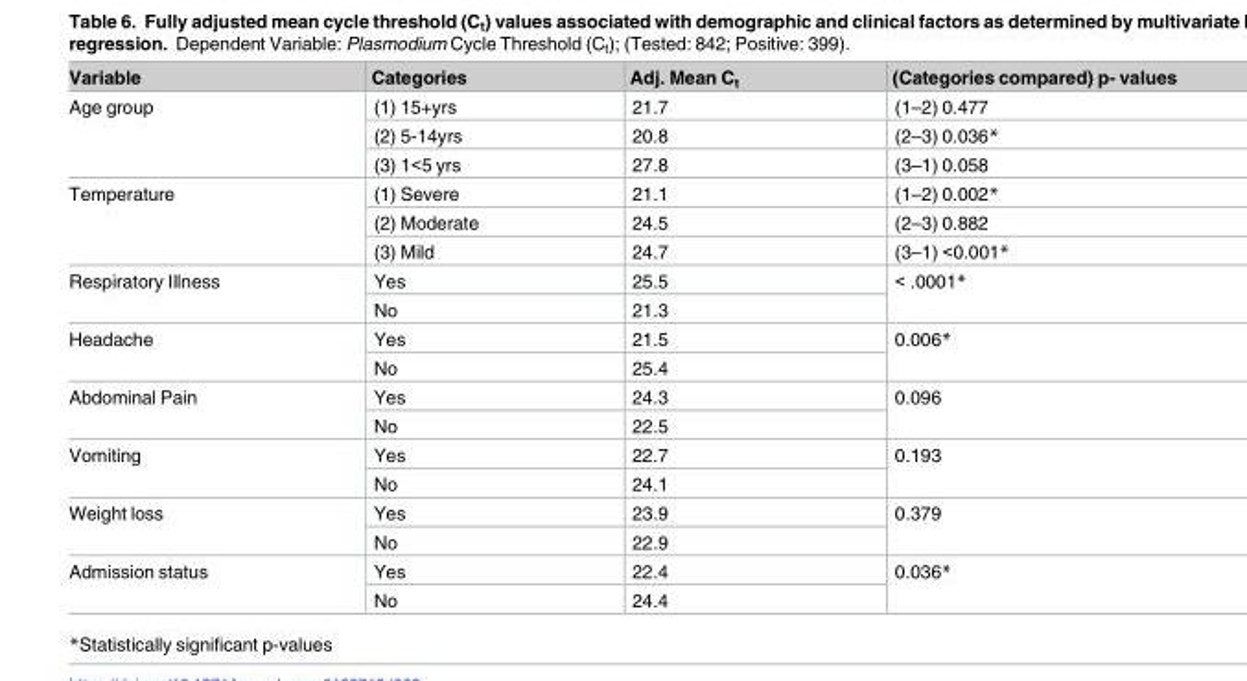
<table><thead><tr><td>Variable</td><td>Categories</td><td>Adj. Mean C<sub>t</sub></td><td>(Categories compared) p- values</td></tr></thead><tbody><tr><td rowspan="3">Age group</td><td>(1) 15+yrs</td><td>21.7</td><td>(1–2) 0.477</td></tr><tr><td>(2) 5-14yrs</td><td>20.8</td><td>(2–3) 0.036*</td></tr><tr><td>(3) 1&lt;5 yrs</td><td>27.8</td><td>(3–1) 0.058</td></tr><tr><td rowspan="3">Temperature</td><td>(1) Severe</td><td>21.1</td><td>(1–2) 0.002*</td></tr><tr><td>(2) Moderate</td><td>24.5</td><td>(2–3) 0.882</td></tr><tr><td>(3) Mild</td><td>24.7</td><td>(3–1) &lt;0.001*</td></tr><tr><td rowspan="2">Respiratory Illness</td><td>Yes</td><td>25.5</td><td rowspan="2">&lt; .0001*</td></tr><tr><td>No</td><td>21.3</td></tr><tr><td rowspan="2">Headache</td><td>Yes</td><td>21.5</td><td rowspan="2">0.006*</td></tr><tr><td>No</td><td>25.4</td></tr><tr><td rowspan="2">Abdominal Pain</td><td>Yes</td><td>24.3</td><td rowspan="2">0.096</td></tr><tr><td>No</td><td>22.5</td></tr><tr><td rowspan="2">Vomiting</td><td>Yes</td><td>22.7</td><td rowspan="2">0.193</td></tr><tr><td>No</td><td>24.1</td></tr><tr><td rowspan="2">Weight loss</td><td>Yes</td><td>23.9</td><td rowspan="2">0.379</td></tr><tr><td>No</td><td>22.9</td></tr><tr><td rowspan="2">Admission status</td><td>Yes</td><td>22.4</td><td rowspan="2">0.036*</td></tr><tr><td>No</td><td>24.4</td></tr></tbody></table>